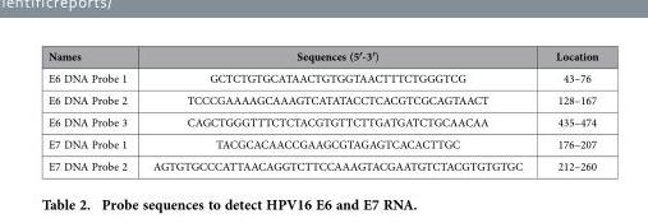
<table><thead><tr><td>Names</td><td>Sequences (5′-3′)</td><td>Location</td></tr></thead><tbody><tr><td>E6 DNA Probe 1</td><td>GCTCTGTGCATAACTGTGGTAACTTTCTGGGTCG</td><td>43–76</td></tr><tr><td>E6 DNA Probe 2</td><td>TCCCGAAAAGCAAAGTCATATACCTCACGTCGCAGTAACT</td><td>128–167</td></tr><tr><td>E6 DNA Probe 3</td><td>CAGCTGGGTTTCTCTACGTGTTCTTGATGATCTGCAACAA</td><td>435–474</td></tr><tr><td>E7 DNA Probe 1</td><td>TACGCACAACCGAAGCGTAGAGTCACACTTGC</td><td>176–207</td></tr><tr><td>E7 DNA Probe 2</td><td>AGTGTGCCCATTAACAGGTCTTCCAAAGTACGAATGTCTACGTGTGTGC</td><td>212–260</td></tr></tbody></table>